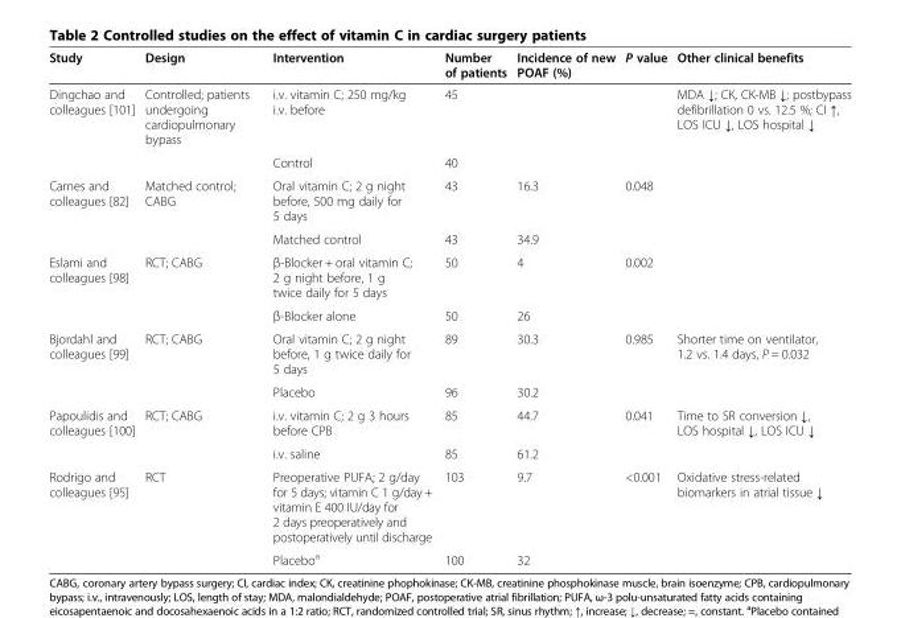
<table><thead><tr><td>Study</td><td>Design</td><td>Intervention</td><td>Number of patients</td><td>Incidence of new POAF (%)</td><td>P value</td><td>Other clinical benefits</td></tr></thead><tbody><tr><td rowspan="2">Dingchao and colleagues [101]</td><td>Controlled; patients undergoing cardiopulmonary bypass</td><td>i.v. vitamin C; 250 mg/kg i.v. before</td><td>45</td><td></td><td></td><td>MDA ↓; CK, CK-MB ↓; postbypass defibrillation 0 vs. 12.5 %; CI ↑, LOS ICU ↓, LOS hospital ↓</td></tr><tr><td></td><td>Control</td><td>40</td><td></td><td></td><td></td></tr><tr><td rowspan="2">Carnes and colleagues [82]</td><td>Matched control; CABG</td><td>Oral vitamin C; 2 g night before, 500 mg daily for 5 days</td><td>43</td><td>16.3</td><td>0.048</td><td></td></tr><tr><td></td><td>Matched control</td><td>43</td><td>34.9</td><td></td><td></td></tr><tr><td rowspan="2">Eslami and colleagues [98]</td><td>RCT; CABG</td><td>β-Blocker + oral vitamin C; 2 g night before, 1 g twice daily for 5 days</td><td>50</td><td>4</td><td>0.002</td><td></td></tr><tr><td></td><td>β-Blocker alone</td><td>50</td><td>26</td><td></td><td></td></tr><tr><td rowspan="2">Bjordahl and colleagues [99]</td><td>RCT; CABG</td><td>Oral vitamin C; 2 g night before, 1 g twice daily for 5 days</td><td>89</td><td>30.3</td><td>0.985</td><td>Shorter time on ventilator, 1.2 vs. 1.4 days, P = 0.032</td></tr><tr><td></td><td>Placebo</td><td>96</td><td>30.2</td><td></td><td></td></tr><tr><td rowspan="2">Papoulidis and colleagues [100]</td><td>RCT; CABG</td><td>i.v. vitamin C; 2 g 3 hours before CPB</td><td>85</td><td>44.7</td><td>0.041</td><td>Time to SR conversion ↓, LOS hospital ↓, LOS ICU ↓</td></tr><tr><td></td><td>i.v. saline</td><td>85</td><td>61.2</td><td></td><td></td></tr><tr><td rowspan="2">Rodrigo and colleagues [95]</td><td>RCT</td><td>Preoperative PUFA; 2 g/day for 5 days; vitamin C 1 g/day + vitamin E 400 IU/day for 2 days preoperatively and postoperatively until discharge</td><td>103</td><td>9.7</td><td>&lt;0.001</td><td>Oxidative stress-related biomarkers in atrial tissue ↓</td></tr><tr><td></td><td>Placebo<sup>a</sup></td><td>100</td><td>32</td><td></td><td></td></tr></tbody></table>